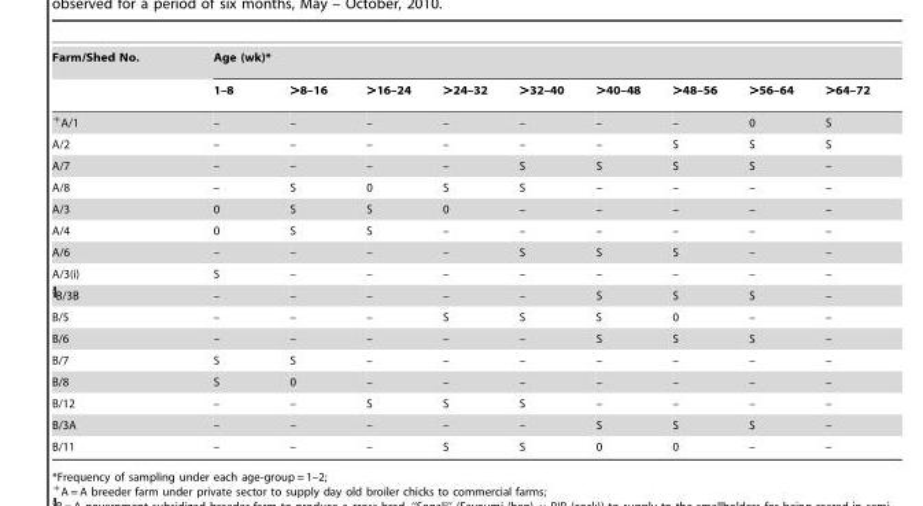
<table><tbody><tr><td rowspan="2">Farm/Shed No.</td><td colspan="9">Age (wk)*</td></tr><tr><td>1–8</td><td>&gt;8–16</td><td>&gt;16–24</td><td>&gt;24–32</td><td>&gt;32–40</td><td>&gt;40–48</td><td>&gt;48–56</td><td>&gt;56–64</td><td>&gt;64–72</td></tr><tr><td>╪A/1</td><td>–</td><td>–</td><td>–</td><td>–</td><td>–</td><td>–</td><td>–</td><td>0</td><td>S</td></tr><tr><td>A/2</td><td>–</td><td>–</td><td>–</td><td>–</td><td>–</td><td>–</td><td>S</td><td>S</td><td>S</td></tr><tr><td>A/7</td><td>–</td><td>–</td><td>–</td><td>–</td><td>S</td><td>S</td><td>S</td><td>S</td><td>–</td></tr><tr><td>A/8</td><td>–</td><td>S</td><td>0</td><td>S</td><td>S</td><td>–</td><td>–</td><td>–</td><td>–</td></tr><tr><td>A/3</td><td>0</td><td>S</td><td>S</td><td>0</td><td>–</td><td>–</td><td>–</td><td>–</td><td>–</td></tr><tr><td>A/4</td><td>0</td><td>S</td><td>S</td><td>–</td><td>–</td><td>–</td><td>–</td><td>–</td><td>–</td></tr><tr><td>A/6</td><td>–</td><td>–</td><td>–</td><td>–</td><td>S</td><td>S</td><td>S</td><td>–</td><td>–</td></tr><tr><td>A/3(i)</td><td>S</td><td>–</td><td>–</td><td>–</td><td>–</td><td>–</td><td>–</td><td>–</td><td>–</td></tr><tr><td>B/3B</td><td>–</td><td>–</td><td>–</td><td>–</td><td>–</td><td>S</td><td>S</td><td>S</td><td>–</td></tr><tr><td>B/5</td><td>–</td><td>–</td><td>–</td><td>S</td><td>S</td><td>S</td><td>0</td><td>–</td><td>–</td></tr><tr><td>B/6</td><td>–</td><td>–</td><td>–</td><td>–</td><td>–</td><td>S</td><td>S</td><td>S</td><td>–</td></tr><tr><td>B/7</td><td>S</td><td>S</td><td>–</td><td>–</td><td>–</td><td>–</td><td>–</td><td>–</td><td>–</td></tr><tr><td>B/8</td><td>S</td><td>0</td><td>–</td><td>–</td><td>–</td><td>–</td><td>–</td><td>–</td><td>–</td></tr><tr><td>B/12</td><td>–</td><td>–</td><td>S</td><td>S</td><td>S</td><td>–</td><td>–</td><td>–</td><td>–</td></tr><tr><td>B/3A</td><td>–</td><td>–</td><td>–</td><td>–</td><td>–</td><td>S</td><td>S</td><td>S</td><td>–</td></tr><tr><td>B/11</td><td>–</td><td>–</td><td>–</td><td>S</td><td>S</td><td>0</td><td>0</td><td>–</td><td>–</td></tr></tbody></table>